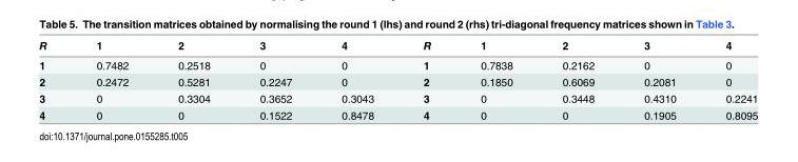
<table><thead><tr><td>R</td><td>1</td><td>2</td><td>3</td><td>4</td><td>R</td><td>1</td><td>2</td><td>3</td><td>4</td></tr></thead><tbody><tr><td>1</td><td>0.7482</td><td>0.2518</td><td>0</td><td>0</td><td>1</td><td>0.7838</td><td>0.2162</td><td>0</td><td>0</td></tr><tr><td>2</td><td>0.2472</td><td>0.5281</td><td>0.2247</td><td>0</td><td>2</td><td>0.1850</td><td>0.6069</td><td>0.2081</td><td>0</td></tr><tr><td>3</td><td>0</td><td>0.3304</td><td>0.3652</td><td>0.3043</td><td>3</td><td>0</td><td>0.3448</td><td>0.4310</td><td>0.2241</td></tr><tr><td>4</td><td>0</td><td>0</td><td>0.1522</td><td>0.8478</td><td>4</td><td>0</td><td>0</td><td>0.1905</td><td>0.8095</td></tr></tbody></table>